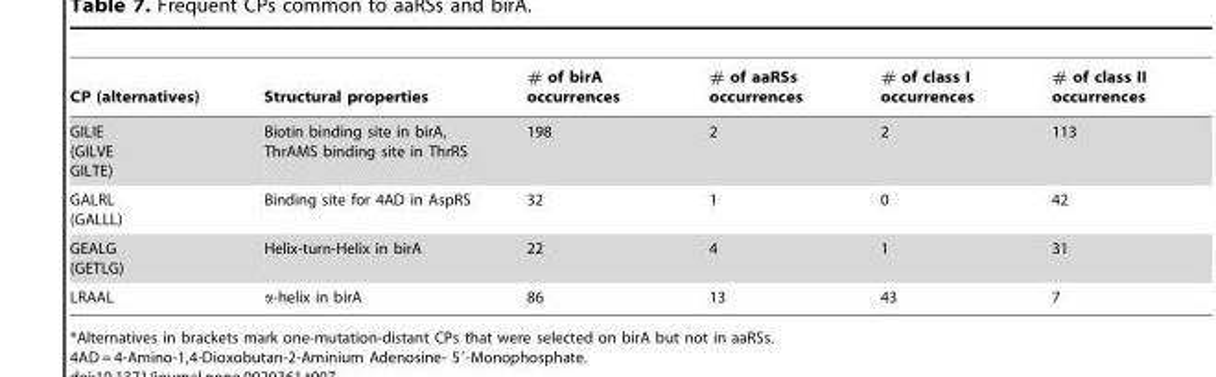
<table><thead><tr><td>CP (alternatives)</td><td>Structural properties</td><td># of birA occurrences</td><td># of aaRSs occurrences</td><td># of class I occurrences</td><td># of class II occurrences</td></tr></thead><tbody><tr><td>GILIE (GILVE GILTE)</td><td>Biotin binding site in birA, ThrAMS binding site in ThrRS</td><td>198</td><td>2</td><td>2</td><td>113</td></tr><tr><td>GALRL (GALLL)</td><td>Binding site for 4AD in AspRS</td><td>32</td><td>1</td><td>0</td><td>42</td></tr><tr><td>GEALG (GETLG)</td><td>Helix-turn-Helix in birA</td><td>22</td><td>4</td><td>1</td><td>31</td></tr><tr><td>LRAAL</td><td>α-helix in birA</td><td>86</td><td>13</td><td>43</td><td>7</td></tr></tbody></table>